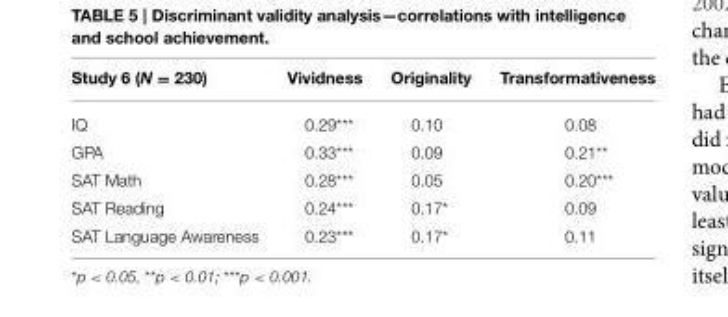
<table><thead><tr><td>Study 6 (N = 230)</td><td>Vividness</td><td>Originality</td><td>Transformativeness</td></tr></thead><tbody><tr><td>IQ</td><td>0.29***</td><td>0.10</td><td>0.08</td></tr><tr><td>GPA</td><td>0.33***</td><td>0.09</td><td>0.21**</td></tr><tr><td>SAT Math</td><td>0.28***</td><td>0.05</td><td>0.20***</td></tr><tr><td>SAT Reading</td><td>0.24***</td><td>0.17*</td><td>0.09</td></tr><tr><td>SAT Language Awareness</td><td>0.23***</td><td>0.17*</td><td>0.11</td></tr></tbody></table>